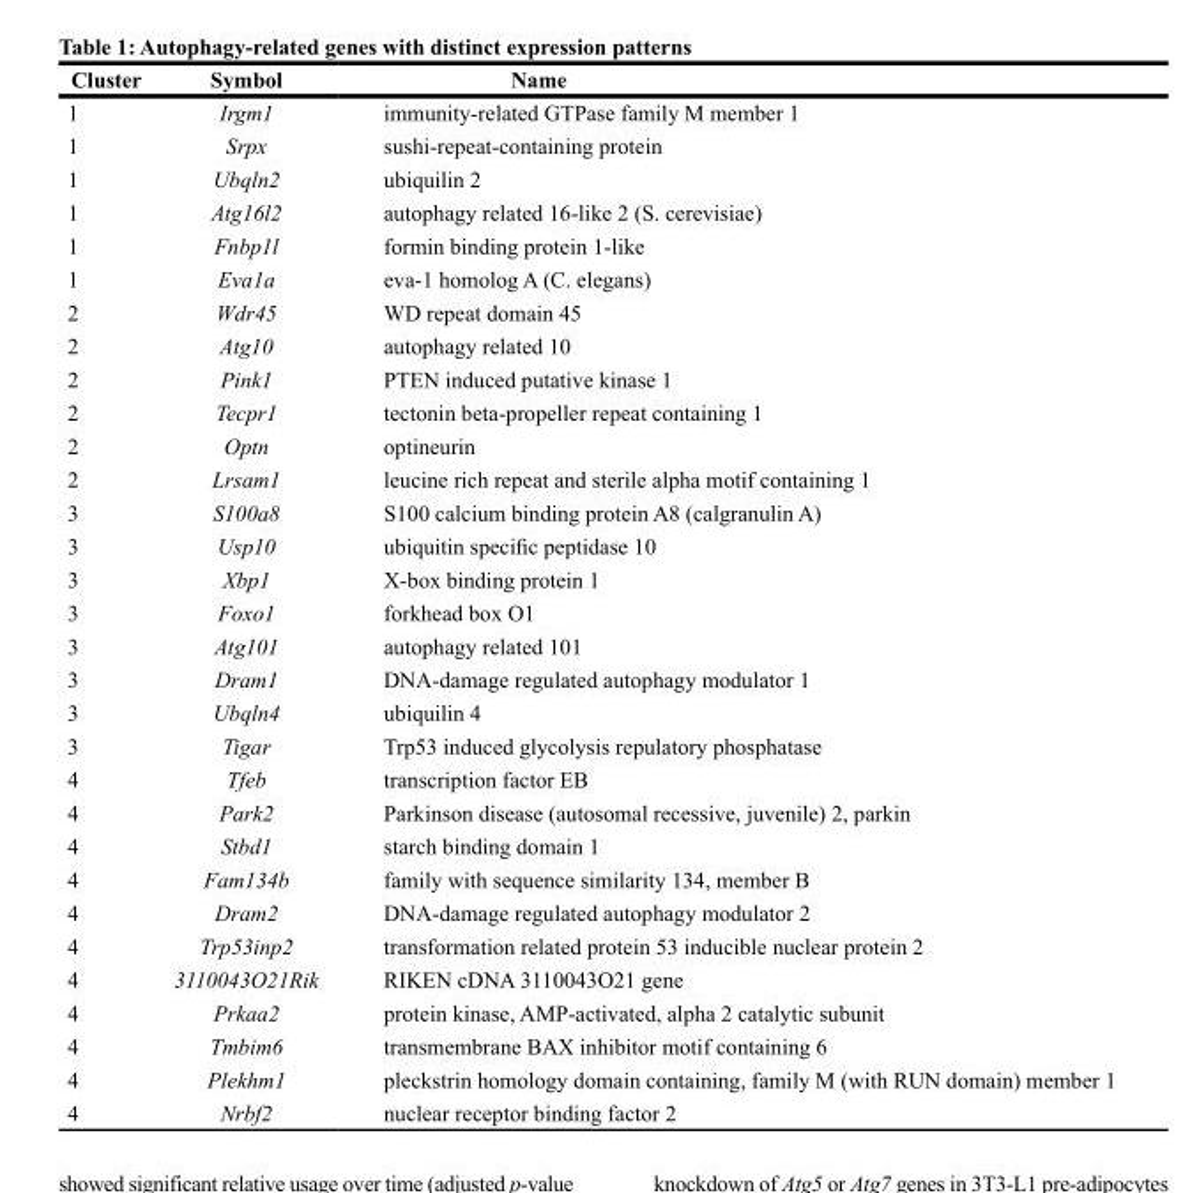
<table><thead><tr><td>Cluster</td><td>Symbol</td><td>Name</td></tr></thead><tbody><tr><td>1</td><td>Irgm1</td><td>immunity-related GTPase family M member 1</td></tr><tr><td>1</td><td>Srpx</td><td>sushi-repeat-containing protein</td></tr><tr><td>1</td><td>Ubqln2</td><td>ubiquilin 2</td></tr><tr><td>1</td><td>Atg16l2</td><td>autophagy related 16-like 2 (S. cerevisiae)</td></tr><tr><td>1</td><td>Fnbp1l</td><td>formin binding protein 1-like</td></tr><tr><td>1</td><td>Eva1a</td><td>eva-1 homolog A (C. elegans)</td></tr><tr><td>2</td><td>Wdr45</td><td>WD repeat domain 45</td></tr><tr><td>2</td><td>Atg10</td><td>autophagy related 10</td></tr><tr><td>2</td><td>Pink1</td><td>PTEN induced putative kinase 1</td></tr><tr><td>2</td><td>Tecpr1</td><td>tectonin beta-propeller repeat containing 1</td></tr><tr><td>2</td><td>Optn</td><td>optineurin</td></tr><tr><td>2</td><td>Lrsam1</td><td>leucine rich repeat and sterile alpha motif containing 1</td></tr><tr><td>3</td><td>S100a8</td><td>S100 calcium binding protein A8 (calgranulin A)</td></tr><tr><td>3</td><td>Usp10</td><td>ubiquitin specific peptidase 10</td></tr><tr><td>3</td><td>Xbp1</td><td>X-box binding protein 1</td></tr><tr><td>3</td><td>Foxo1</td><td>forkhead box O1</td></tr><tr><td>3</td><td>Atg101</td><td>autophagy related 101</td></tr><tr><td>3</td><td>Dram1</td><td>DNA-damage regulated autophagy modulator 1</td></tr><tr><td>3</td><td>Ubqln4</td><td>ubiquilin 4</td></tr><tr><td>3</td><td>Tigar</td><td>Trp53 induced glycolysis repulatory phosphatase</td></tr><tr><td>4</td><td>Tfeb</td><td>transcription factor EB</td></tr><tr><td>4</td><td>Park2</td><td>Parkinson disease (autosomal recessive, juvenile) 2, parkin</td></tr><tr><td>4</td><td>Stbd1</td><td>starch binding domain 1</td></tr><tr><td>4</td><td>Fam134b</td><td>family with sequence similarity 134, member B</td></tr><tr><td>4</td><td>Dram2</td><td>DNA-damage regulated autophagy modulator 2</td></tr><tr><td>4</td><td>Trp53inp2</td><td>transformation related protein 53 inducible nuclear protein 2</td></tr><tr><td>4</td><td>3110043O21Rik</td><td>RIKEN cDNA 3110043O21 gene</td></tr><tr><td>4</td><td>Prkaa2</td><td>protein kinase, AMP-activated, alpha 2 catalytic subunit</td></tr><tr><td>4</td><td>Tmbim6</td><td>transmembrane BAX inhibitor motif containing 6</td></tr><tr><td>4</td><td>Plekhm1</td><td>pleckstrin homology domain containing, family M (with RUN domain) member 1</td></tr><tr><td>4</td><td>Nrbf2</td><td>nuclear receptor binding factor 2</td></tr></tbody></table>